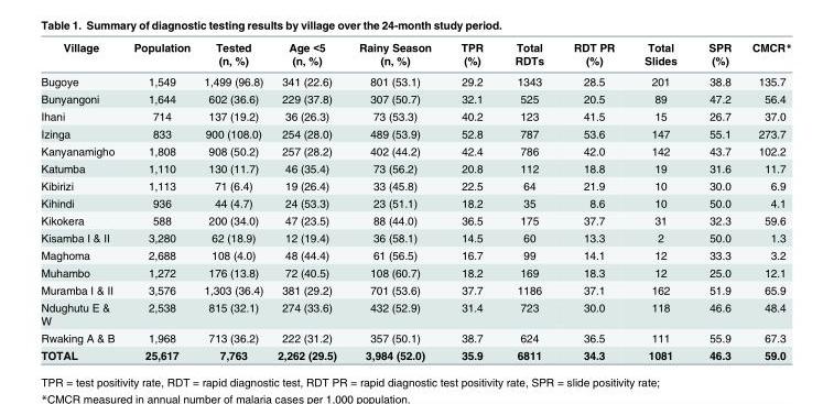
<table><thead><tr><td>Village</td><td>Population</td><td>Tested (n, %)</td><td>Age &lt;5 (n, %)</td><td>Rainy Season (n, %)</td><td>TPR (%)</td><td>Total RDTs</td><td>RDT PR (%)</td><td>Total Slides</td><td>SPR (%)</td><td>CMCR*</td></tr></thead><tbody><tr><td>Bugoye</td><td>1,549</td><td>1,499 (96.8)</td><td>341 (22.6)</td><td>801 (53.1)</td><td>29.2</td><td>1343</td><td>28.5</td><td>201</td><td>38.8</td><td>135.7</td></tr><tr><td>Bunyangoni</td><td>1,644</td><td>602 (36.6)</td><td>229 (37.8)</td><td>307 (50.7)</td><td>32.1</td><td>525</td><td>20.5</td><td>89</td><td>47.2</td><td>56.4</td></tr><tr><td>Ihani</td><td>714</td><td>137 (19.2)</td><td>36 (26.3)</td><td>73 (53.3)</td><td>40.2</td><td>123</td><td>41.5</td><td>15</td><td>26.7</td><td>37.0</td></tr><tr><td>Izinga</td><td>833</td><td>900 (108.0)</td><td>254 (28.0)</td><td>489 (53.9)</td><td>52.8</td><td>787</td><td>53.6</td><td>147</td><td>55.1</td><td>273.7</td></tr><tr><td>Kanyanamigho</td><td>1,808</td><td>908 (50.2)</td><td>257 (28.2)</td><td>402 (44.2)</td><td>42.4</td><td>786</td><td>42.0</td><td>142</td><td>43.7</td><td>102.2</td></tr><tr><td>Katumba</td><td>1,110</td><td>130 (11.7)</td><td>46 (35.4)</td><td>73 (56.2)</td><td>20.8</td><td>112</td><td>18.8</td><td>19</td><td>31.6</td><td>11.7</td></tr><tr><td>Kibirizi</td><td>1,113</td><td>71 (6.4)</td><td>19 (26.4)</td><td>33 (45.8)</td><td>22.5</td><td>64</td><td>21.9</td><td>10</td><td>30.0</td><td>6.9</td></tr><tr><td>Kihindi</td><td>936</td><td>44 (4.7)</td><td>24 (53.3)</td><td>23 (51.1)</td><td>18.2</td><td>35</td><td>8.6</td><td>10</td><td>50.0</td><td>4.1</td></tr><tr><td>Kikokera</td><td>588</td><td>200 (34.0)</td><td>47 (23.5)</td><td>88 (44.0)</td><td>36.5</td><td>175</td><td>37.7</td><td>31</td><td>32.3</td><td>59.6</td></tr><tr><td>Kisamba I &amp; II</td><td>3,280</td><td>62 (18.9)</td><td>12 (19.4)</td><td>36 (58.1)</td><td>14.5</td><td>60</td><td>13.3</td><td>2</td><td>50.0</td><td>1.3</td></tr><tr><td>Maghoma</td><td>2,688</td><td>108 (4.0)</td><td>48 (44.4)</td><td>61 (56.5)</td><td>16.7</td><td>99</td><td>14.1</td><td>12</td><td>33.3</td><td>3.2</td></tr><tr><td>Muhambo</td><td>1,272</td><td>176 (13.8)</td><td>72 (40.5)</td><td>108 (60.7)</td><td>18.2</td><td>169</td><td>18.3</td><td>12</td><td>25.0</td><td>12.1</td></tr><tr><td>Muramba I &amp; II</td><td>3,576</td><td>1,303 (36.4)</td><td>381 (29.2)</td><td>701 (53.6)</td><td>37.7</td><td>1186</td><td>37.1</td><td>162</td><td>51.9</td><td>65.9</td></tr><tr><td>Ndughutu E &amp; W</td><td>2,538</td><td>815 (32.1)</td><td>274 (33.6)</td><td>432 (52.9)</td><td>31.4</td><td>723</td><td>30.0</td><td>118</td><td>46.6</td><td>48.4</td></tr><tr><td>Rwaking A &amp; B</td><td>1,968</td><td>713 (36.2)</td><td>222 (31.2)</td><td>357 (50.1)</td><td>38.7</td><td>624</td><td>36.5</td><td>111</td><td>55.9</td><td>67.3</td></tr><tr><td>TOTAL</td><td>25,617</td><td>7,763</td><td>2,262 (29.5)</td><td>3,984 (52.0)</td><td>35.9</td><td>6811</td><td>34.3</td><td>1081</td><td>46.3</td><td>59.0</td></tr></tbody></table>